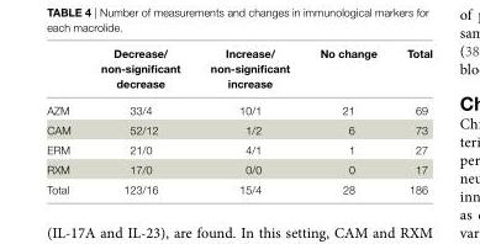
<table><thead><tr><td></td><td>Decrease/ non-significant decrease</td><td>increase/ non-significant increase</td><td>No change</td><td>total</td></tr></thead><tbody><tr><td>AZM</td><td>33/4</td><td>10/1</td><td>21</td><td>69</td></tr><tr><td>CAM</td><td>52/12</td><td>1/2</td><td>6</td><td>73</td></tr><tr><td>ERM</td><td>21/0</td><td>4/1</td><td>1</td><td>27</td></tr><tr><td>RXM</td><td>17/0</td><td>0/0</td><td>0</td><td>17</td></tr><tr><td>Total</td><td>123/16</td><td>15/4</td><td>28</td><td>186</td></tr></tbody></table>